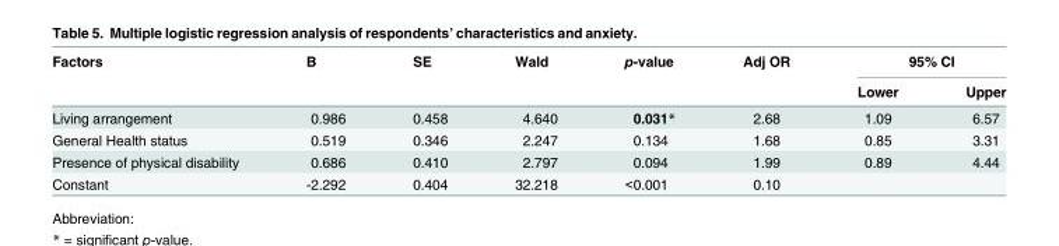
<table><thead><tr><td rowspan="2">Factors</td><td rowspan="2">B</td><td rowspan="2">SE</td><td rowspan="2">Wald</td><td rowspan="2">p-value</td><td rowspan="2">Adj OR</td><td colspan="2">95% CI</td></tr><tr><td>Lower</td><td>Upper</td></tr></thead><tbody><tr><td>Living arrangement</td><td>0.986</td><td>0.458</td><td>4.640</td><td>0.031*</td><td>2.68</td><td>1.09</td><td>6.57</td></tr><tr><td>General Health status</td><td>0.519</td><td>0.346</td><td>2.247</td><td>0.134</td><td>1.68</td><td>0.85</td><td>3.31</td></tr><tr><td>Presence of physical disability</td><td>0.686</td><td>0.410</td><td>2.797</td><td>0.094</td><td>1.99</td><td>0.89</td><td>4.44</td></tr><tr><td>Constant</td><td>-2.292</td><td>0.404</td><td>32.218</td><td>&lt;0.001</td><td>0.10</td><td></td><td></td></tr></tbody></table>